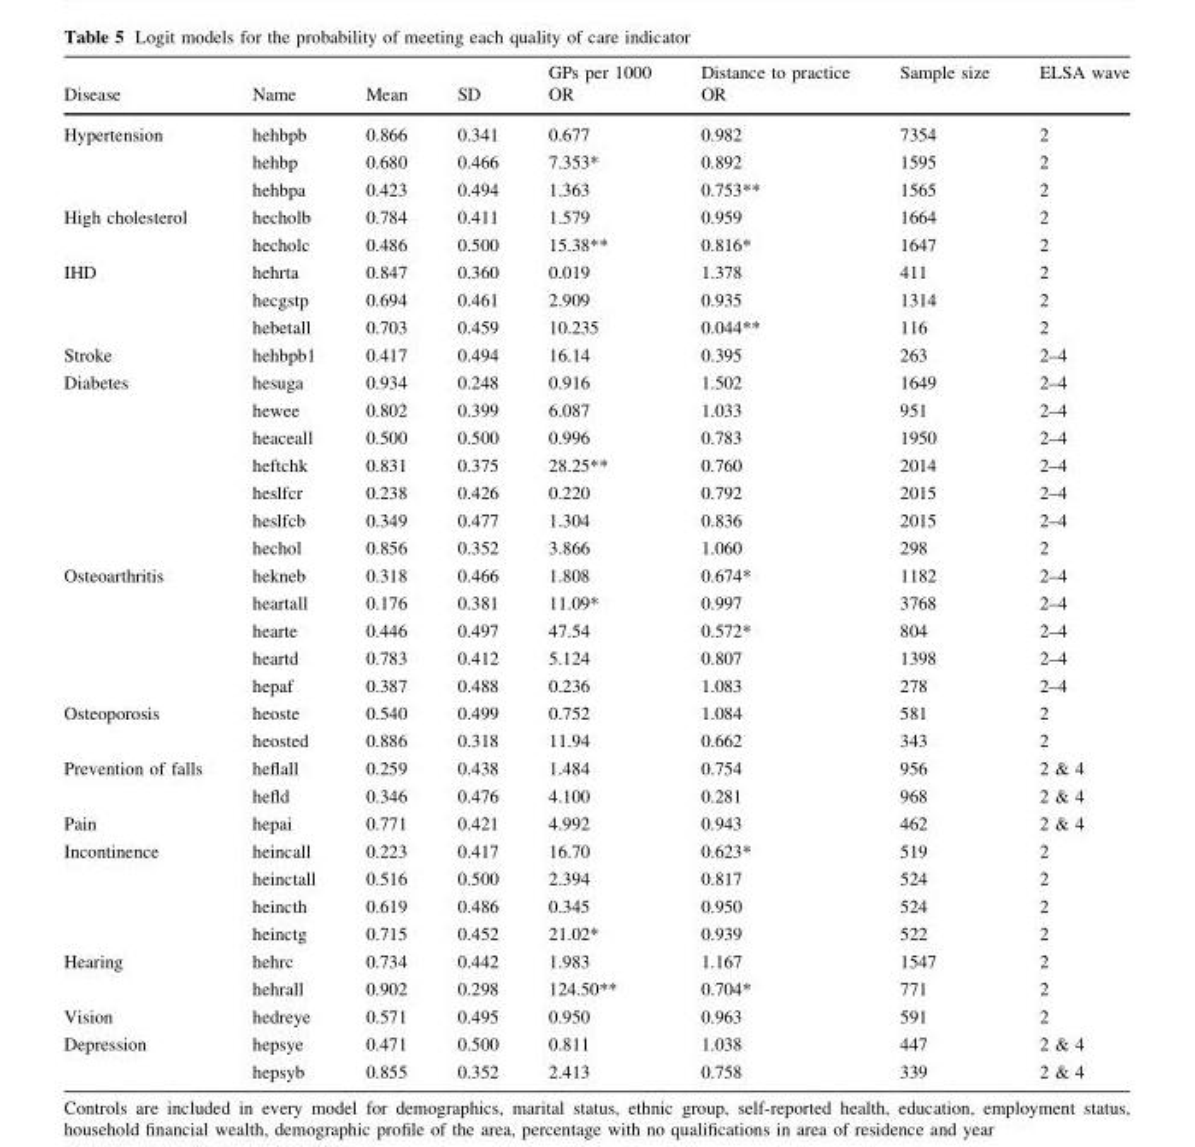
<table><thead><tr><td rowspan="2">Disease</td><td rowspan="2">Name</td><td rowspan="2">Mean</td><td rowspan="2">SD</td><td rowspan="2">GPs per 1000 OR</td><td rowspan="2">Distance to practice OR</td><td rowspan="2">Sample size</td><td rowspan="2">ELSA wave</td></tr><tr></tr></thead><tbody><tr><td rowspan="3">Hypertension</td><td>hehbpb</td><td>0.866</td><td>0.341</td><td>0.677</td><td>0.982</td><td>7354</td><td>2</td></tr><tr><td>hehbp</td><td>0.680</td><td>0.466</td><td>7.353*</td><td>0.892</td><td>1595</td><td>2</td></tr><tr><td>hehbpa</td><td>0.423</td><td>0.494</td><td>1.363</td><td>0.753**</td><td>1565</td><td>2</td></tr><tr><td rowspan="2">High cholesterol</td><td>hecholb</td><td>0.784</td><td>0.411</td><td>1.579</td><td>0.959</td><td>1664</td><td>2</td></tr><tr><td>hecholc</td><td>0.486</td><td>0.500</td><td>15.38**</td><td>0.816*</td><td>1647</td><td>2</td></tr><tr><td rowspan="3">IHD</td><td>hehrta</td><td>0.847</td><td>0.360</td><td>0.019</td><td>1.378</td><td>411</td><td>2</td></tr><tr><td>hecgstp</td><td>0.694</td><td>0.461</td><td>2.909</td><td>0.935</td><td>1314</td><td>2</td></tr><tr><td>hebetall</td><td>0.703</td><td>0.459</td><td>10.235</td><td>0.044**</td><td>116</td><td>2</td></tr><tr><td>Stroke</td><td>hehbpb1</td><td>0.417</td><td>0.494</td><td>16.14</td><td>0.395</td><td>263</td><td>2–4</td></tr><tr><td rowspan="7">Diabetes</td><td>hesuga</td><td>0.934</td><td>0.248</td><td>0.916</td><td>1.502</td><td>1649</td><td>2–4</td></tr><tr><td>hewee</td><td>0.802</td><td>0.399</td><td>6.087</td><td>1.033</td><td>951</td><td>2–4</td></tr><tr><td>heaceall</td><td>0.500</td><td>0.500</td><td>0.996</td><td>0.783</td><td>1950</td><td>2–4</td></tr><tr><td>heftchk</td><td>0.831</td><td>0.375</td><td>28.25**</td><td>0.760</td><td>2014</td><td>2–4</td></tr><tr><td>heslfcr</td><td>0.238</td><td>0.426</td><td>0.220</td><td>0.792</td><td>2015</td><td>2–4</td></tr><tr><td>heslfcb</td><td>0.349</td><td>0.477</td><td>1.304</td><td>0.836</td><td>2015</td><td>2–4</td></tr><tr><td>hechol</td><td>0.856</td><td>0.352</td><td>3.866</td><td>1.060</td><td>298</td><td>2</td></tr><tr><td rowspan="5">Osteoarthritis</td><td>hekneb</td><td>0.318</td><td>0.466</td><td>1.808</td><td>0.674*</td><td>1182</td><td>2–4</td></tr><tr><td>heartall</td><td>0.176</td><td>0.381</td><td>11.09*</td><td>0.997</td><td>3768</td><td>2–4</td></tr><tr><td>hearte</td><td>0.446</td><td>0.497</td><td>47.54</td><td>0.572*</td><td>804</td><td>2–4</td></tr><tr><td>heartd</td><td>0.783</td><td>0.412</td><td>5.124</td><td>0.807</td><td>1398</td><td>2–4</td></tr><tr><td>hepaf</td><td>0.387</td><td>0.488</td><td>0.236</td><td>1.083</td><td>278</td><td>2–4</td></tr><tr><td rowspan="2">Osteoporosis</td><td>heoste</td><td>0.540</td><td>0.499</td><td>0.752</td><td>1.084</td><td>581</td><td>2</td></tr><tr><td>heosted</td><td>0.886</td><td>0.318</td><td>11.94</td><td>0.662</td><td>343</td><td>2</td></tr><tr><td rowspan="2">Prevention of falls</td><td>heflall</td><td>0.259</td><td>0.438</td><td>1.484</td><td>0.754</td><td>956</td><td>2 &amp; 4</td></tr><tr><td>hefld</td><td>0.346</td><td>0.476</td><td>4.100</td><td>0.281</td><td>968</td><td>2 &amp; 4</td></tr><tr><td>Pain</td><td>hepai</td><td>0.771</td><td>0.421</td><td>4.992</td><td>0.943</td><td>462</td><td>2 &amp; 4</td></tr><tr><td rowspan="4">Incontinence</td><td>heincall</td><td>0.223</td><td>0.417</td><td>16.70</td><td>0.623*</td><td>519</td><td>2</td></tr><tr><td>heinctall</td><td>0.516</td><td>0.500</td><td>2.394</td><td>0.817</td><td>524</td><td>2</td></tr><tr><td>heincth</td><td>0.619</td><td>0.486</td><td>0.345</td><td>0.950</td><td>524</td><td>2</td></tr><tr><td>heinctg</td><td>0.715</td><td>0.452</td><td>21.02*</td><td>0.939</td><td>522</td><td>2</td></tr><tr><td rowspan="2">Hearing</td><td>hehrc</td><td>0.734</td><td>0.442</td><td>1.983</td><td>1.167</td><td>1547</td><td>2</td></tr><tr><td>hehrall</td><td>0.902</td><td>0.298</td><td>124.50**</td><td>0.704*</td><td>771</td><td>2</td></tr><tr><td>Vision</td><td>hedreye</td><td>0.571</td><td>0.495</td><td>0.950</td><td>0.963</td><td>591</td><td>2</td></tr><tr><td rowspan="2">Depression</td><td>hepsye</td><td>0.471</td><td>0.500</td><td>0.811</td><td>1.038</td><td>447</td><td>2 &amp; 4</td></tr><tr><td>hepsyb</td><td>0.855</td><td>0.352</td><td>2.413</td><td>0.758</td><td>339</td><td>2 &amp; 4</td></tr></tbody></table>